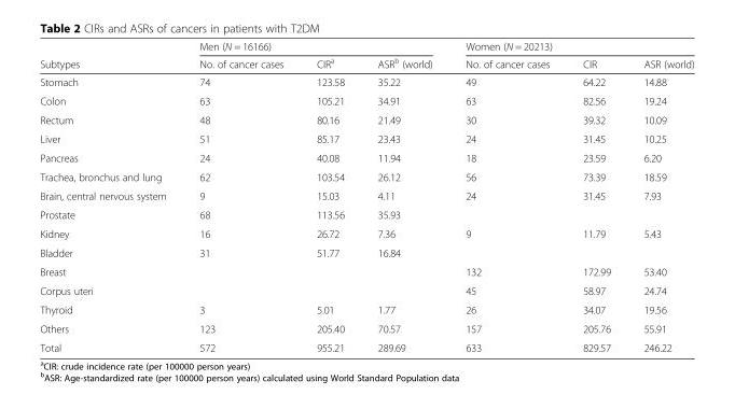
<table><thead><tr><td rowspan="2">Subtypes</td><td colspan="3">Men (N = 16166)</td><td colspan="3">Women (N = 20213)</td></tr><tr><td>No. of cancer cases</td><td>CIR<sup>a</sup></td><td>ASR<sup>b</sup> (world)</td><td>No. of cancer cases</td><td>CIR</td><td>ASR (world)</td></tr></thead><tbody><tr><td>Stomach</td><td>74</td><td>123.58</td><td>35.22</td><td>49</td><td>64.22</td><td>14.88</td></tr><tr><td>Colon</td><td>63</td><td>105.21</td><td>34.91</td><td>63</td><td>82.56</td><td>19.24</td></tr><tr><td>Rectum</td><td>48</td><td>80.16</td><td>21.49</td><td>30</td><td>39.32</td><td>10.09</td></tr><tr><td>Liver</td><td>51</td><td>85.17</td><td>23.43</td><td>24</td><td>31.45</td><td>10.25</td></tr><tr><td>Pancreas</td><td>24</td><td>40.08</td><td>11.94</td><td>18</td><td>23.59</td><td>6.20</td></tr><tr><td>Trachea, bronchus and lung</td><td>62</td><td>103.54</td><td>26.12</td><td>56</td><td>73.39</td><td>18.59</td></tr><tr><td>Brain, central nervous system</td><td>9</td><td>15.03</td><td>4.11</td><td>24</td><td>31.45</td><td>7.93</td></tr><tr><td>Prostate</td><td>68</td><td>113.56</td><td>35.93</td><td></td><td></td><td></td></tr><tr><td>Kidney</td><td>16</td><td>26.72</td><td>7.36</td><td>9</td><td>11.79</td><td>5.43</td></tr><tr><td>Bladder</td><td>31</td><td>51.77</td><td>16.84</td><td></td><td></td><td></td></tr><tr><td>Breast</td><td></td><td></td><td></td><td>132</td><td>172.99</td><td>53.40</td></tr><tr><td>Corpus uteri</td><td></td><td></td><td></td><td>45</td><td>58.97</td><td>24.74</td></tr><tr><td>Thyroid</td><td>3</td><td>5.01</td><td>1.77</td><td>26</td><td>34.07</td><td>19.56</td></tr><tr><td>Others</td><td>123</td><td>205.40</td><td>70.57</td><td>157</td><td>205.76</td><td>55.91</td></tr><tr><td>Total</td><td>572</td><td>955.21</td><td>289.69</td><td>633</td><td>829.57</td><td>246.22</td></tr></tbody></table>